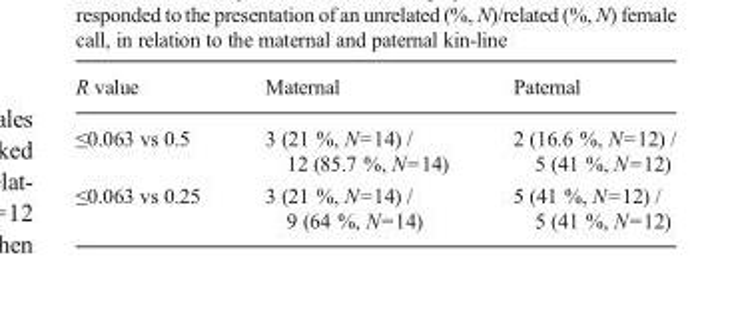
<table><thead><tr><td>R value</td><td>Maternal</td><td>Paternal</td></tr></thead><tbody><tr><td>≤0.063 vs 0.5</td><td>3 (21 %, N=14) / 12 (85.7 %, N=14)</td><td>2 (16.6 %, N=12) / 5 (41 %, N=12)</td></tr><tr><td>≤0.063 vs 0.25</td><td>3 (21 %, N=14) / 9 (64 %, N=14)</td><td>5 (41 %, N=12) / 5 (41 %, N=12)</td></tr></tbody></table>